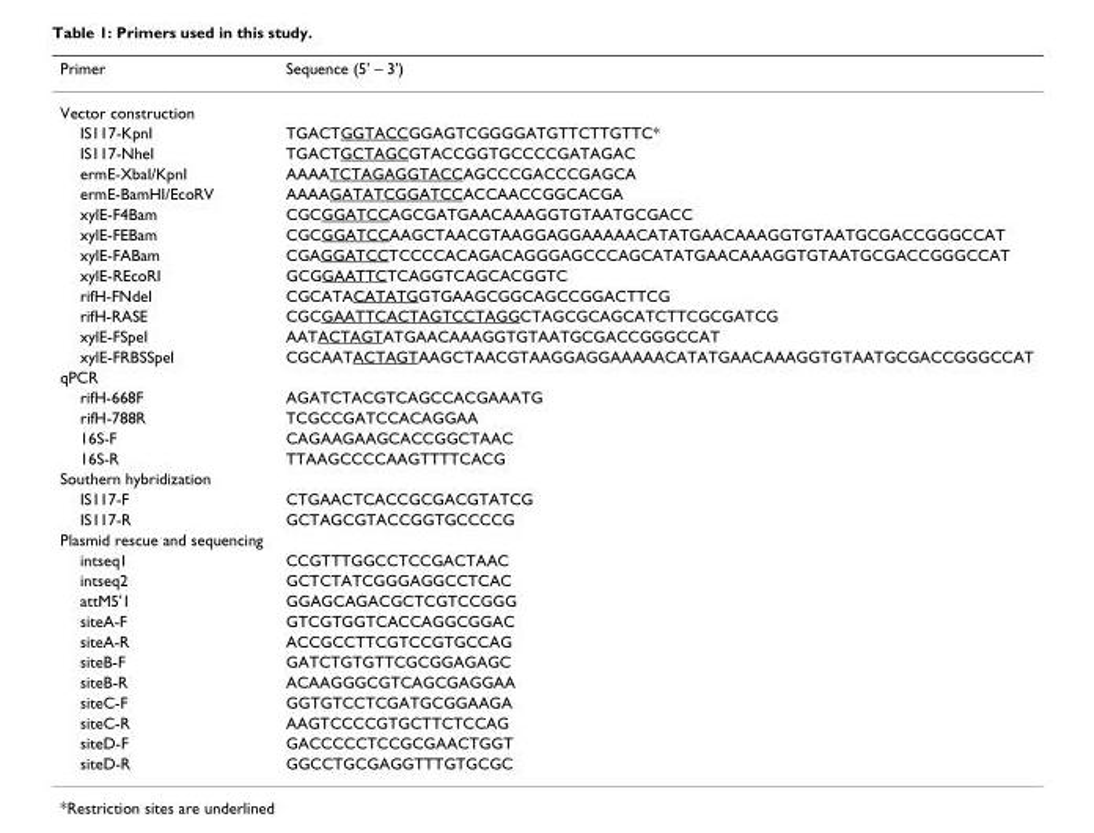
<table><thead><tr><td>Primer</td><td>Sequence (5&#x27; – 3&#x27;)</td></tr></thead><tbody><tr><td colspan="2">Vector construction</td></tr><tr><td>IS117-KpnI</td><td>TGACTGGTACCGGAGTCGGGGATGTTCTTGTTC*</td></tr><tr><td>IS117-NheI</td><td>TGACTGCTAGCGTACCGGTGCCCCGATAGAC</td></tr><tr><td>ermE-XbaI/KpnI</td><td>AAAATCTAGAGGTACCAGCCCGACCCGAGCA</td></tr><tr><td>ermE-BamHI/EcoRV</td><td>AAAAGATATCGGATCCACCAACCGGCACGA</td></tr><tr><td>xylE-F4Bam</td><td>CGCGGATCCAGCGATGAACAAAGGTGTAATGCGACC</td></tr><tr><td>xylE-FEBam</td><td>CGCGGATCCAAGCTAACGTAAGGAGGAAAAACATATGAACAAAGGTGTAATGCGACCGGGCCAT</td></tr><tr><td>xylE-FABam</td><td>CGAGGATCCTCCCCACAGACAGGGAGCCCAGCATATGAACAAAGGTGTAATGCGACCGGGCCAT</td></tr><tr><td>xylE-REcoRI</td><td>GCGGAATTCTCAGGTCAGCACGGTC</td></tr><tr><td>rifH-FNdeI</td><td>CGCATACATATGGTGAAGCGGCAGCCGGACTTCG</td></tr><tr><td>rifH-RASE</td><td>CGCGAATTCACTAGTCCTAGGCTAGCGCAGCATCTTCGCGATCG</td></tr><tr><td>xylE-FSpeI</td><td>AATACTAGTATGAACAAAGGTGTAATGCGACCGGGCCAT</td></tr><tr><td>xylE-FRBSSpeI</td><td>CGCAATACTAGTAAGCTAACGTAAGGAGGAAAAACATATGAACAAAGGTGTAATGCGACCGGGCCAT</td></tr><tr><td colspan="2">qPCR</td></tr><tr><td>rifH-668F</td><td>AGATCTACGTCAGCCACGAAATG</td></tr><tr><td>rifH-788R</td><td>TCGCCGATCCACAGGAA</td></tr><tr><td>16S-F</td><td>CAGAAGAAGCACCGGCTAAC</td></tr><tr><td>16S-R</td><td>TTAAGCCCCAAGTTTTCACG</td></tr><tr><td colspan="2">Southern hybridization</td></tr><tr><td>IS117-F</td><td>CTGAACTCACCGCGACGTATCG</td></tr><tr><td>IS117-R</td><td>GCTAGCGTACCGGTGCCCCG</td></tr><tr><td colspan="2">Plasmid rescue and sequencing</td></tr><tr><td>intseq1</td><td>CCGTTTGGCCTCCGACTAAC</td></tr><tr><td>intseq2</td><td>GCTCTATCGGGAGGCCTCAC</td></tr><tr><td>attM5&#x27;1</td><td>GGAGCAGACGCTCGTCCGGG</td></tr><tr><td>siteA-F</td><td>GTCGTGGTCACCAGGCGGAC</td></tr><tr><td>siteA-R</td><td>ACCGCCTTCGTCCGTGCCAG</td></tr><tr><td>siteB-F</td><td>GATCTGTGTTCGCGGAGAGC</td></tr><tr><td>siteB-R</td><td>ACAAGGGCGTCAGCGAGGAA</td></tr><tr><td>siteC-F</td><td>GGTGTCCTCGATGCGGAAGA</td></tr><tr><td>siteC-R</td><td>AAGTCCCCGTGCTTCTCCAG</td></tr><tr><td>siteD-F</td><td>GACCCCCTCCGCGAACTGGT</td></tr><tr><td>siteD-R</td><td>GGCCTGCGAGGTTTGTGCGC</td></tr></tbody></table>